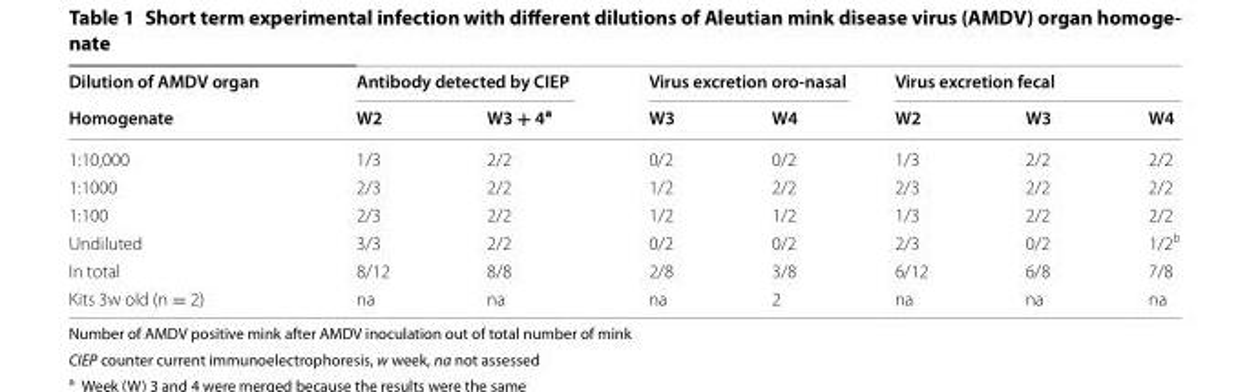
<table><thead><tr><td rowspan="2">Dilution of AMDV organ Homogenate</td><td colspan="2">Antibody detected by CIEP</td><td colspan="2">Virus excretion oro-nasal</td><td colspan="3">Virus excretion fecal</td></tr><tr><td>W2</td><td>W3 + 4<sup>a</sup></td><td>W3</td><td>W4</td><td>W2</td><td>W3</td><td>W4</td></tr></thead><tbody><tr><td>1:10,000</td><td>1/3</td><td>2/2</td><td>0/2</td><td>0/2</td><td>1/3</td><td>2/2</td><td>2/2</td></tr><tr><td>1:1000</td><td>2/3</td><td>2/2</td><td>1/2</td><td>2/2</td><td>2/3</td><td>2/2</td><td>2/2</td></tr><tr><td>1:100</td><td>2/3</td><td>2/2</td><td>1/2</td><td>1/2</td><td>1/3</td><td>2/2</td><td>2/2</td></tr><tr><td>Undiluted</td><td>3/3</td><td>2/2</td><td>0/2</td><td>0/2</td><td>2/3</td><td>0/2</td><td>1/2<sup>b</sup></td></tr><tr><td>In total</td><td>8/12</td><td>8/8</td><td>2/8</td><td>3/8</td><td>6/12</td><td>6/8</td><td>7/8</td></tr><tr><td>Kits 3w old (n = 2)</td><td>na</td><td>na</td><td>na</td><td>2</td><td>na</td><td>na</td><td>na</td></tr></tbody></table>